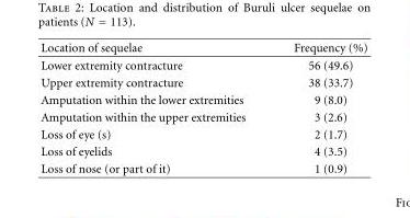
<table><thead><tr><td>Location of sequelae</td><td>Frequency (%)</td></tr></thead><tbody><tr><td>Lower extremity contracture</td><td>56 (49.6)</td></tr><tr><td>Upper extremity contracture</td><td>38 (33.7)</td></tr><tr><td>Amputation within the lower extremities</td><td>9 (8.0)</td></tr><tr><td>Amputation within the upper extremities</td><td>3 (2.6)</td></tr><tr><td>Loss of eye (s)</td><td>2 (1.7)</td></tr><tr><td>Loss of eyelids</td><td>4 (3.5)</td></tr><tr><td>Loss of nose (or part of it)</td><td>1 (0.9)</td></tr></tbody></table>